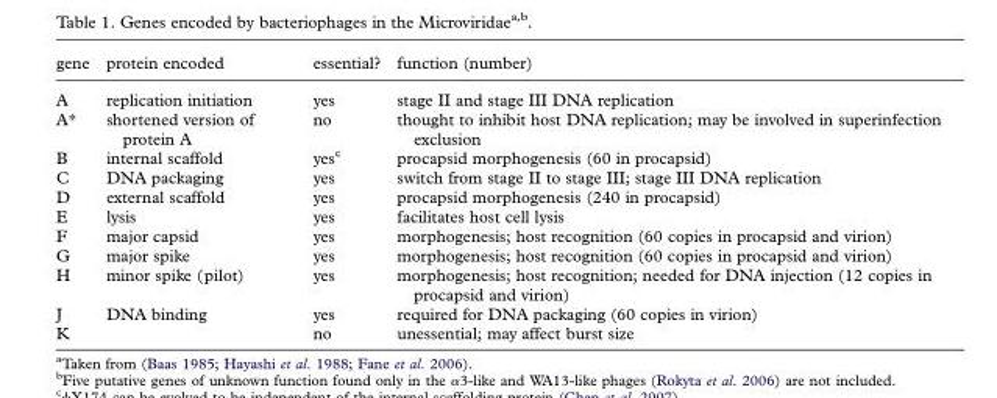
<table><thead><tr><td>gene</td><td>protein encoded</td><td>essential?</td><td>function (number)</td></tr></thead><tbody><tr><td>A</td><td>replication initiation</td><td>yes</td><td>stage II and stage III DNA replication</td></tr><tr><td>A*</td><td>shortened version of protein A</td><td>no</td><td>thought to inhibit host DNA replication; may be involved in superinfection exclusion</td></tr><tr><td>B</td><td>internal scaffold</td><td>yes<sup>c</sup></td><td>procapsid morphogenesis (60 in procapsid)</td></tr><tr><td>C</td><td>DNA packaging</td><td>yes</td><td>switch from stage II to stage III; stage III DNA replication</td></tr><tr><td>D</td><td>external scaffold</td><td>yes</td><td>procapsid morphogenesis (240 in procapsid)</td></tr><tr><td>E</td><td>lysis</td><td>yes</td><td>facilitates host cell lysis</td></tr><tr><td>F</td><td>major capsid</td><td>yes</td><td>morphogenesis; host recognition (60 copies in procapsid and virion)</td></tr><tr><td>G</td><td>major spike</td><td>yes</td><td>morphogenesis; host recognition (60 copies in procapsid and virion)</td></tr><tr><td>H</td><td>minor spike (pilot)</td><td>yes</td><td>morphogenesis; host recognition; needed for DNA injection (12 copies in procapsid and virion)</td></tr><tr><td>J</td><td>DNA binding</td><td>yes</td><td>required for DNA packaging (60 copies in virion)</td></tr><tr><td>K</td><td></td><td>no</td><td>unessential; may affect burst size</td></tr></tbody></table>